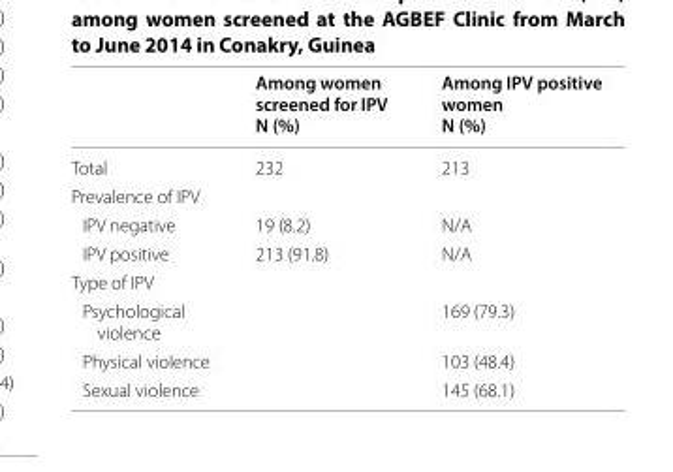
<table><thead><tr><td></td><td>Among women screened for IPV N (%)</td><td>Among IPV positive women N (%)</td></tr></thead><tbody><tr><td>Total</td><td>232</td><td>213</td></tr><tr><td colspan="3">Prevalence of IPV</td></tr><tr><td>IPV negative</td><td>19 (8.2)</td><td>N/A</td></tr><tr><td>IPV positive</td><td>213 (91.8)</td><td>N/A</td></tr><tr><td colspan="3">Type of IPV</td></tr><tr><td>Psychological violence</td><td></td><td>169 (79.3)</td></tr><tr><td>Physical violence</td><td></td><td>103 (48.4)</td></tr><tr><td>Sexual violence</td><td></td><td>145 (68.1)</td></tr></tbody></table>